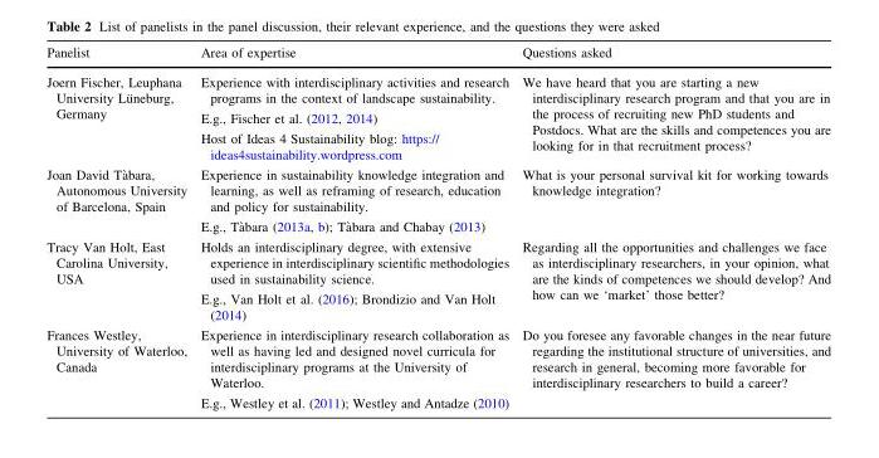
<table><thead><tr><td>Panelist</td><td>Area of expertise</td><td>Questions asked</td></tr></thead><tbody><tr><td>Joern Fischer, Leuphana University Lu¨neburg, Germany</td><td>Experience with interdisciplinary activities and research programs in the context of landscape sustainability. E.g., Fischer et al. (2012, 2014) Host of Ideas 4 Sustainability blog: https:// ideas4sustainability.wordpress.com</td><td>We have heard that you are starting a new interdisciplinary research program and that you are in the process of recruiting new PhD students and Postdocs. What are the skills and competences you are looking for in that recruitment process?</td></tr><tr><td>Joan David Ta`bara, Autonomous University of Barcelona, Spain</td><td>Experience in sustainability knowledge integration and learning, as well as reframing of research, education and policy for sustainability. E.g., Ta`bara (2013a, b); Ta`bara and Chabay (2013)</td><td>What is your personal survival kit for working towards knowledge integration?</td></tr><tr><td>Tracy Van Holt, East Carolina University, USA</td><td>Holds an interdisciplinary degree, with extensive experience in interdisciplinary scientific methodologies used in sustainability science. E.g., Van Holt et al. (2016); Brondizio and Van Holt (2014)</td><td>Regarding all the opportunities and challenges we face as interdisciplinary researchers, in your opinion, what are the kinds of competences we should develop? And how can we ‘market’ those better?</td></tr><tr><td>Frances Westley, University of Waterloo, Canada</td><td>Experience in interdisciplinary research collaboration as well as having led and designed novel curricula for interdisciplinary programs at the University of Waterloo. E.g., Westley et al. (2011); Westley and Antadze (2010)</td><td>Do you foresee any favorable changes in the near future regarding the institutional structure of universities, and research in general, becoming more favorable for interdisciplinary researchers to build a career?</td></tr></tbody></table>